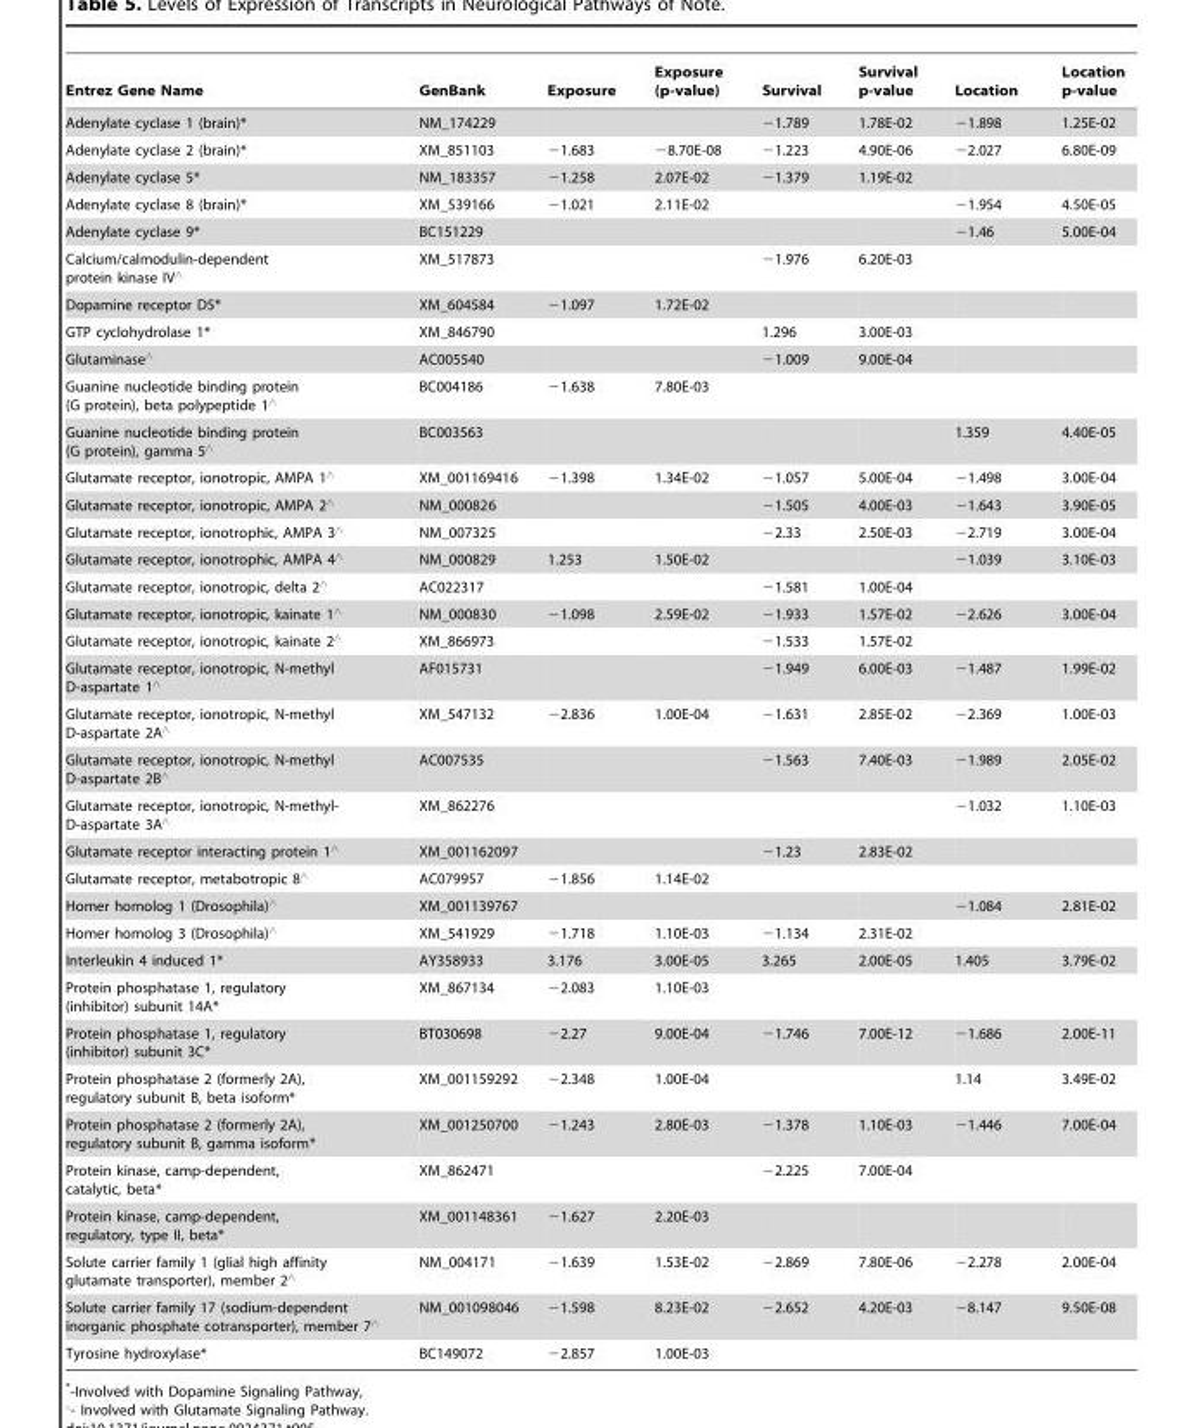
<table><thead><tr><td>Entrez Gene Name</td><td>GenBank</td><td>Exposure</td><td>Exposure (p-value)</td><td>Survival</td><td>Survival p-value</td><td>Location</td><td>Location p-value</td></tr></thead><tbody><tr><td>Adenylate cyclase 1 (brain)*</td><td>NM_174229</td><td></td><td></td><td>−1.789</td><td>1.78E-02</td><td>−1.898</td><td>1.25E-02</td></tr><tr><td>Adenylate cyclase 2 (brain)*</td><td>XM_851103</td><td>−1.683</td><td>−8.70E-08</td><td>−1.223</td><td>4.90E-06</td><td>−2.027</td><td>6.80E-09</td></tr><tr><td>Adenylate cyclase 5*</td><td>NM_183357</td><td>−1.258</td><td>2.07E-02</td><td>−1.379</td><td>1.19E-02</td><td></td><td></td></tr><tr><td>Adenylate cyclase 8 (brain)*</td><td>XM_539166</td><td>−1.021</td><td>2.11E-02</td><td></td><td></td><td>−1.954</td><td>4.50E-05</td></tr><tr><td>Adenylate cyclase 9*</td><td>BC151229</td><td></td><td></td><td></td><td></td><td>−1.46</td><td>5.00E-04</td></tr><tr><td>Calcium/calmodulin-dependent protein kinase IV‘</td><td>XM_517873</td><td></td><td></td><td>−1.976</td><td>6.20E-03</td><td></td><td></td></tr><tr><td>Dopamine receptor D5*</td><td>XM_604584</td><td>−1.097</td><td>1.72E-02</td><td></td><td></td><td></td><td></td></tr><tr><td>GTP cyclohydrolase 1*</td><td>XM_846790</td><td></td><td></td><td>1.296</td><td>3.00E-03</td><td></td><td></td></tr><tr><td>Glutaminase‘</td><td>AC005540</td><td></td><td></td><td>−1.009</td><td>9.00E-04</td><td></td><td></td></tr><tr><td>Guanine nucleotide binding protein (G protein), beta polypeptide 1‘</td><td>BC004186</td><td>−1.638</td><td>7.80E-03</td><td></td><td></td><td></td><td></td></tr><tr><td>Guanine nucleotide binding protein (G protein), gamma 5‘</td><td>BC003563</td><td></td><td></td><td></td><td></td><td>1.359</td><td>4.40E-05</td></tr><tr><td>Glutamate receptor, ionotropic, AMPA 1‘</td><td>XM_001169416</td><td>−1.398</td><td>1.34E-02</td><td>−1.057</td><td>5.00E-04</td><td>−1.498</td><td>3.00E-04</td></tr><tr><td>Glutamate receptor, ionotropic, AMPA 2‘</td><td>NM_000826</td><td></td><td></td><td>−1.505</td><td>4.00E-03</td><td>−1.643</td><td>3.90E-05</td></tr><tr><td>Glutamate receptor, ionotrophic, AMPA 3‘</td><td>NM_007325</td><td></td><td></td><td>−2.33</td><td>2.50E-03</td><td>−2.719</td><td>3.00E-04</td></tr><tr><td>Glutamate receptor, ionotrophic, AMPA 4‘</td><td>NM_000829</td><td>1.253</td><td>1.50E-02</td><td></td><td></td><td>−1.039</td><td>3.10E-03</td></tr><tr><td>Glutamate receptor, ionotropic, delta 2‘</td><td>AC022317</td><td></td><td></td><td>−1.581</td><td>1.00E-04</td><td></td><td></td></tr><tr><td>Glutamate receptor, ionotropic, kainate 1‘</td><td>NM_000830</td><td>−1.098</td><td>2.59E-02</td><td>−1.933</td><td>1.57E-02</td><td>−2.626</td><td>3.00E-04</td></tr><tr><td>Glutamate receptor, ionotropic, kainate 2‘</td><td>XM_866973</td><td></td><td></td><td>−1.533</td><td>1.57E-02</td><td></td><td></td></tr><tr><td>Glutamate receptor, ionotropic, N-methyl D-aspartate 1‘</td><td>AF015731</td><td></td><td></td><td>−1.949</td><td>6.00E-03</td><td>−1.487</td><td>1.99E-02</td></tr><tr><td>Glutamate receptor, ionotropic, N-methyl D-aspartate 2A‘</td><td>XM_547132</td><td>−2.836</td><td>1.00E-04</td><td>−1.631</td><td>2.85E-02</td><td>−2.369</td><td>1.00E-03</td></tr><tr><td>Glutamate receptor, ionotropic, N-methyl D-aspartate 2B‘</td><td>AC007535</td><td></td><td></td><td>−1.563</td><td>7.40E-03</td><td>−1.989</td><td>2.05E-02</td></tr><tr><td>Glutamate receptor, ionotropic, N-methyl- D-aspartate 3A‘</td><td>XM_862276</td><td></td><td></td><td></td><td></td><td>−1.032</td><td>1.10E-03</td></tr><tr><td>Glutamate receptor interacting protein 1‘</td><td>XM_001162097</td><td></td><td></td><td>−1.23</td><td>2.83E-02</td><td></td><td></td></tr><tr><td>Glutamate receptor, metabotropic 8‘</td><td>AC079957</td><td>−1.856</td><td>1.14E-02</td><td></td><td></td><td></td><td></td></tr><tr><td>Homer homolog 1 (Drosophila)‘</td><td>XM_001139767</td><td></td><td></td><td></td><td></td><td>−1.084</td><td>2.81E-02</td></tr><tr><td>Homer homolog 3 (Drosophila)‘</td><td>XM_541929</td><td>−1.718</td><td>1.10E-03</td><td>−1.134</td><td>2.31E-02</td><td></td><td></td></tr><tr><td>Interleukin 4 induced 1*</td><td>AY358933</td><td>3.176</td><td>3.00E-05</td><td>3.265</td><td>2.00E-05</td><td>1.405</td><td>3.79E-02</td></tr><tr><td>Protein phosphatase 1, regulatory (inhibitor) subunit 14A*</td><td>XM_867134</td><td>−2.083</td><td>1.10E-03</td><td></td><td></td><td></td><td></td></tr><tr><td>Protein phosphatase 1, regulatory (inhibitor) subunit 3C*</td><td>BT030698</td><td>−2.27</td><td>9.00E-04</td><td>−1.746</td><td>7.00E-12</td><td>−1.686</td><td>2.00E-11</td></tr><tr><td>Protein phosphatase 2 (formerly 2A), regulatory subunit B, beta isoform*</td><td>XM_001159292</td><td>−2.348</td><td>1.00E-04</td><td></td><td></td><td>1.14</td><td>3.49E-02</td></tr><tr><td>Protein phosphatase 2 (formerly 2A), regulatory subunit B, gamma isoform*</td><td>XM_001250700</td><td>−1.243</td><td>2.80E-03</td><td>−1.378</td><td>1.10E-03</td><td>−1.446</td><td>7.00E-04</td></tr><tr><td>Protein kinase, camp-dependent, catalytic, beta*</td><td>XM_862471</td><td></td><td></td><td>−2.225</td><td>7.00E-04</td><td></td><td></td></tr><tr><td>Protein kinase, camp-dependent, regulatory, type II, beta*</td><td>XM_001148361</td><td>−1.627</td><td>2.20E-03</td><td></td><td></td><td></td><td></td></tr><tr><td>Solute carrier family 1 (glial high affinity glutamate transporter), member 2‘</td><td>NM_004171</td><td>−1.639</td><td>1.53E-02</td><td>−2.869</td><td>7.80E-06</td><td>−2.278</td><td>2.00E-04</td></tr><tr><td>Solute carrier family 17 (sodium-dependent inorganic phosphate cotransporter), member 7‘</td><td>NM_001098046</td><td>−1.598</td><td>8.23E-02</td><td>−2.652</td><td>4.20E-03</td><td>−8.147</td><td>9.50E-08</td></tr><tr><td>Tyrosine hydroxylase*</td><td>BC149072</td><td>−2.857</td><td>1.00E-03</td><td></td><td></td><td></td><td></td></tr></tbody></table>